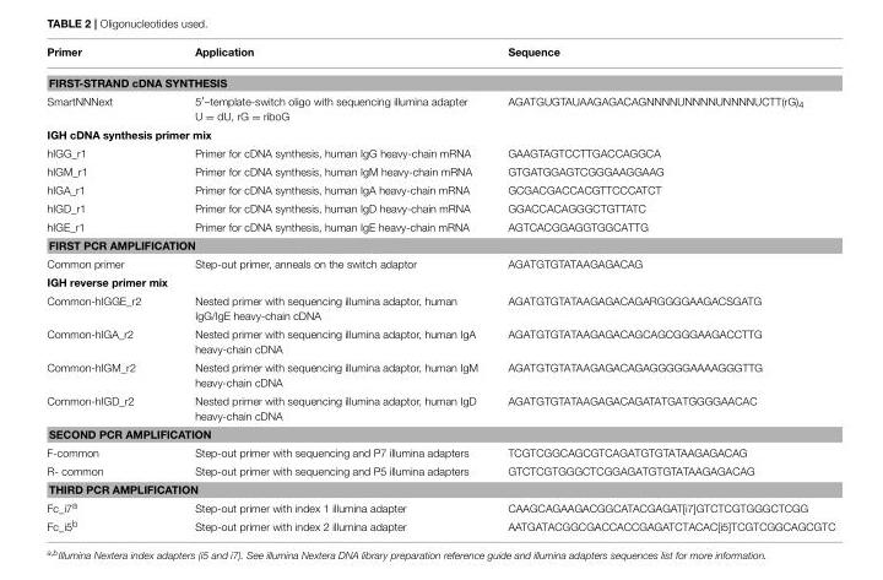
<table><thead><tr><td>Primer</td><td>Application</td><td>Sequence</td></tr></thead><tbody><tr><td colspan="3">FIRST-STRAND cDNA SYNTHESIS</td></tr><tr><td>SmartNNNext</td><td>5′–template-switch oligo with sequencing illumina adapter U = dU, rG = riboG</td><td>AGATGUGTAUAAGAGACAGNNNNUNNNNUNNNNUCTT(rG)<sub>4</sub></td></tr><tr><td colspan="3">IGH cDNA synthesis primer mix</td></tr><tr><td>hIGG_r1</td><td>Primer for cDNA synthesis, human IgG heavy-chain mRNA</td><td>GAAGTAGTCCTTGACCAGGCA</td></tr><tr><td>hIGM_r1</td><td>Primer for cDNA synthesis, human IgM heavy-chain mRNA</td><td>GTGATGGAGTCGGGAAGGAAG</td></tr><tr><td>hIGA_r1</td><td>Primer for cDNA synthesis, human IgA heavy-chain mRNA</td><td>GCGACGACCACGTTCCCATCT</td></tr><tr><td>hIGD_r1</td><td>Primer for cDNA synthesis, human IgD heavy-chain mRNA</td><td>GGACCACAGGGCTGTTATC</td></tr><tr><td>hIGE_r1</td><td>Primer for cDNA synthesis, human IgE heavy-chain mRNA</td><td>AGTCACGGAGGTGGCATTG</td></tr><tr><td colspan="3">FIRST PCR AMPLIFICATION</td></tr><tr><td>Common primer</td><td>Step-out primer, anneals on the switch adaptor</td><td>AGATGTGTATAAGAGACAG</td></tr><tr><td colspan="3">IGH reverse primer mix</td></tr><tr><td>Common-hIGGE_r2</td><td>Nested primer with sequencing illumina adaptor, human IgG/IgE heavy-chain cDNA</td><td>AGATGTGTATAAGAGACAGARGGGGAAGACSGATG</td></tr><tr><td>Common-hIGA_r2</td><td>Nested primer with sequencing illumina adaptor, human IgA heavy-chain cDNA</td><td>AGATGTGTATAAGAGACAGCAGCGGGAAGACCTTG</td></tr><tr><td>Common-hIGM_r2</td><td>Nested primer with sequencing illumina adaptor, human IgM heavy-chain cDNA</td><td>AGATGTGTATAAGAGACAGAGGGGGAAAAGGGTTG</td></tr><tr><td>Common-hIGD_r2</td><td>Nested primer with sequencing illumina adaptor, human IgD heavy-chain cDNA</td><td>AGATGTGTATAAGAGACAGATATGATGGGGAACAC</td></tr><tr><td colspan="3">SECOND PCR AMPLIFICATION</td></tr><tr><td>F-common</td><td>Step-out primer with sequencing and P7 illumina adapters</td><td>TCGTCGGCAGCGTCAGATGTGTATAAGAGACAG</td></tr><tr><td>R- common</td><td>Step-out primer with sequencing and P5 illumina adapters</td><td>GTCTCGTGGGCTCGGAGATGTGTATAAGAGACAG</td></tr><tr><td colspan="3">THIRD PCR AMPLIFICATION</td></tr><tr><td>Fc_i7<sup>a</sup></td><td>Step-out primer with index 1 illumina adapter</td><td>CAAGCAGAAGACGGCATACGAGAT[i7]GTCTCGTGGGCTCGG</td></tr><tr><td>Fc_i5<sup>b</sup></td><td>Step-out primer with index 2 illumina adapter</td><td>AATGATACGGCGACCACCGAGATCTACAC[i5]TCGTCGGCAGCGTC</td></tr></tbody></table>